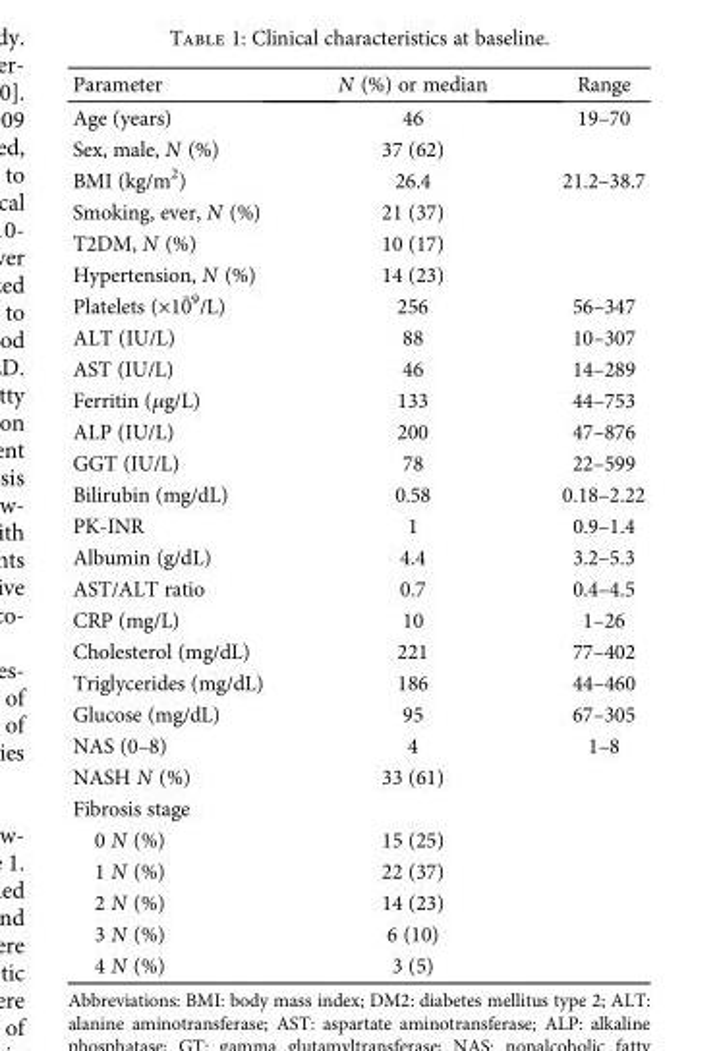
<table><thead><tr><td>Parameter</td><td>N (%) or median</td><td>Range</td></tr></thead><tbody><tr><td>Age (years)</td><td>46</td><td>19–70</td></tr><tr><td>Sex, male, N (%)</td><td>37 (62)</td><td></td></tr><tr><td>BMI (kg/m<sup>2</sup>)</td><td>26.4</td><td>21.2–38.7</td></tr><tr><td>Smoking, ever, N (%)</td><td>21 (37)</td><td></td></tr><tr><td>T2DM, N (%)</td><td>10 (17)</td><td></td></tr><tr><td>Hypertension, N (%)</td><td>14 (23)</td><td></td></tr><tr><td>Platelets (×10̄<sup>9</sup>/L)</td><td>256</td><td>56–347</td></tr><tr><td>ALT (IU/L)</td><td>88</td><td>10–307</td></tr><tr><td>AST (IU/L)</td><td>46</td><td>14–289</td></tr><tr><td>Ferritin (μg/L)</td><td>133</td><td>44–753</td></tr><tr><td>ALP (IU/L)</td><td>200</td><td>47–876</td></tr><tr><td>GGT (IU/L)</td><td>78</td><td>22–599</td></tr><tr><td>Bilirubin (mg/dL)</td><td>0.58</td><td>0.18–2.22</td></tr><tr><td>PK-INR</td><td>1</td><td>0.9–1.4</td></tr><tr><td>Albumin (g/dL)</td><td>4.4</td><td>3.2–5.3</td></tr><tr><td>AST/ALT ratio</td><td>0.7</td><td>0.4–4.5</td></tr><tr><td>CRP (mg/L)</td><td>10</td><td>1–26</td></tr><tr><td>Cholesterol (mg/dL)</td><td>221</td><td>77–402</td></tr><tr><td>Triglycerides (mg/dL)</td><td>186</td><td>44–460</td></tr><tr><td>Glucose (mg/dL)</td><td>95</td><td>67–305</td></tr><tr><td>NAS (0–8)</td><td>4</td><td>1–8</td></tr><tr><td>NASH N (%)</td><td>33 (61)</td><td></td></tr><tr><td colspan="3">Fibrosis stage</td></tr><tr><td>0 N (%)</td><td>15 (25)</td><td></td></tr><tr><td>1 N (%)</td><td>22 (37)</td><td></td></tr><tr><td>2 N (%)</td><td>14 (23)</td><td></td></tr><tr><td>3 N (%)</td><td>6 (10)</td><td></td></tr><tr><td>4 N (%)</td><td>3 (5)</td><td></td></tr></tbody></table>